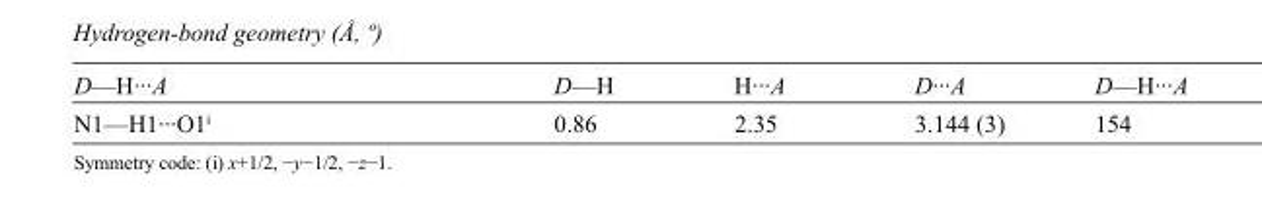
<table><tbody><tr><td>D—H···A</td><td>D—H</td><td>H···A</td><td>D···A</td><td>D—H···A</td></tr><tr><td>N1—H1···O1<sup>i</sup></td><td>0.86</td><td>2.35</td><td>3.144 (3)</td><td>154</td></tr></tbody></table>